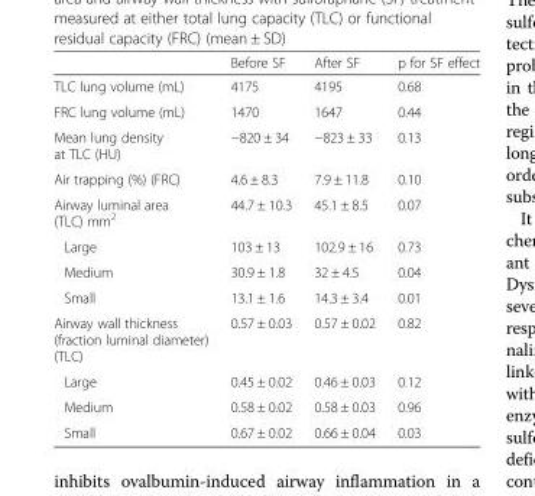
<table><thead><tr><td></td><td>Before SF</td><td>After SF</td><td>p for SF effect</td></tr></thead><tbody><tr><td>TLC lung volume (mL)</td><td>4175</td><td>4195</td><td>0.68</td></tr><tr><td>FRC lung volume (mL)</td><td>1470</td><td>1647</td><td>0.44</td></tr><tr><td>Mean lung density at TLC (HU)</td><td>−820 ± 34</td><td>−823 ± 33</td><td>0.13</td></tr><tr><td>Air trapping (%) (FRC)</td><td>4.6 ± 8.3</td><td>7.9 ± 11.8</td><td>0.10</td></tr><tr><td>Airway luminal area (TLC) mm<sup>2</sup></td><td>44.7 ± 10.3</td><td>45.1 ± 8.5</td><td>0.07</td></tr><tr><td>Large</td><td>103 ± 13</td><td>102.9 ± 16</td><td>0.73</td></tr><tr><td>Medium</td><td>30.9 ± 1.8</td><td>32 ± 4.5</td><td>0.04</td></tr><tr><td>Small</td><td>13.1 ± 1.6</td><td>14.3 ± 3.4</td><td>0.01</td></tr><tr><td>Airway wall thickness (fraction luminal diameter) (TLC)</td><td>0.57 ± 0.03</td><td>0.57 ± 0.02</td><td>0.82</td></tr><tr><td>Large</td><td>0.45 ± 0.02</td><td>0.46 ± 0.03</td><td>0.12</td></tr><tr><td>Medium</td><td>0.58 ± 0.02</td><td>0.58 ± 0.03</td><td>0.96</td></tr><tr><td>Small</td><td>0.67 ± 0.02</td><td>0.66 ± 0.04</td><td>0.03</td></tr></tbody></table>